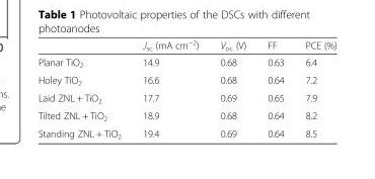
<table><thead><tr><td></td><td>J<sub>sc</sub> (mA cm<sup>−2</sup>)</td><td>V<sub>oc</sub> (V)</td><td>FF</td><td>PCE (%)</td></tr></thead><tbody><tr><td>Planar TiO<sub>2</sub></td><td>14.9</td><td>0.68</td><td>0.63</td><td>6.4</td></tr><tr><td>Holey TiO<sub>2</sub></td><td>16.6</td><td>0.68</td><td>0.64</td><td>7.2</td></tr><tr><td>Laid ZNL + TiO<sub>2</sub></td><td>17.7</td><td>0.69</td><td>0.65</td><td>7.9</td></tr><tr><td>Tilted ZNL + TiO<sub>2</sub></td><td>18.9</td><td>0.68</td><td>0.64</td><td>8.2</td></tr><tr><td>Standing ZNL + TiO<sub>2</sub></td><td>19.4</td><td>0.69</td><td>0.64</td><td>8.5</td></tr></tbody></table>